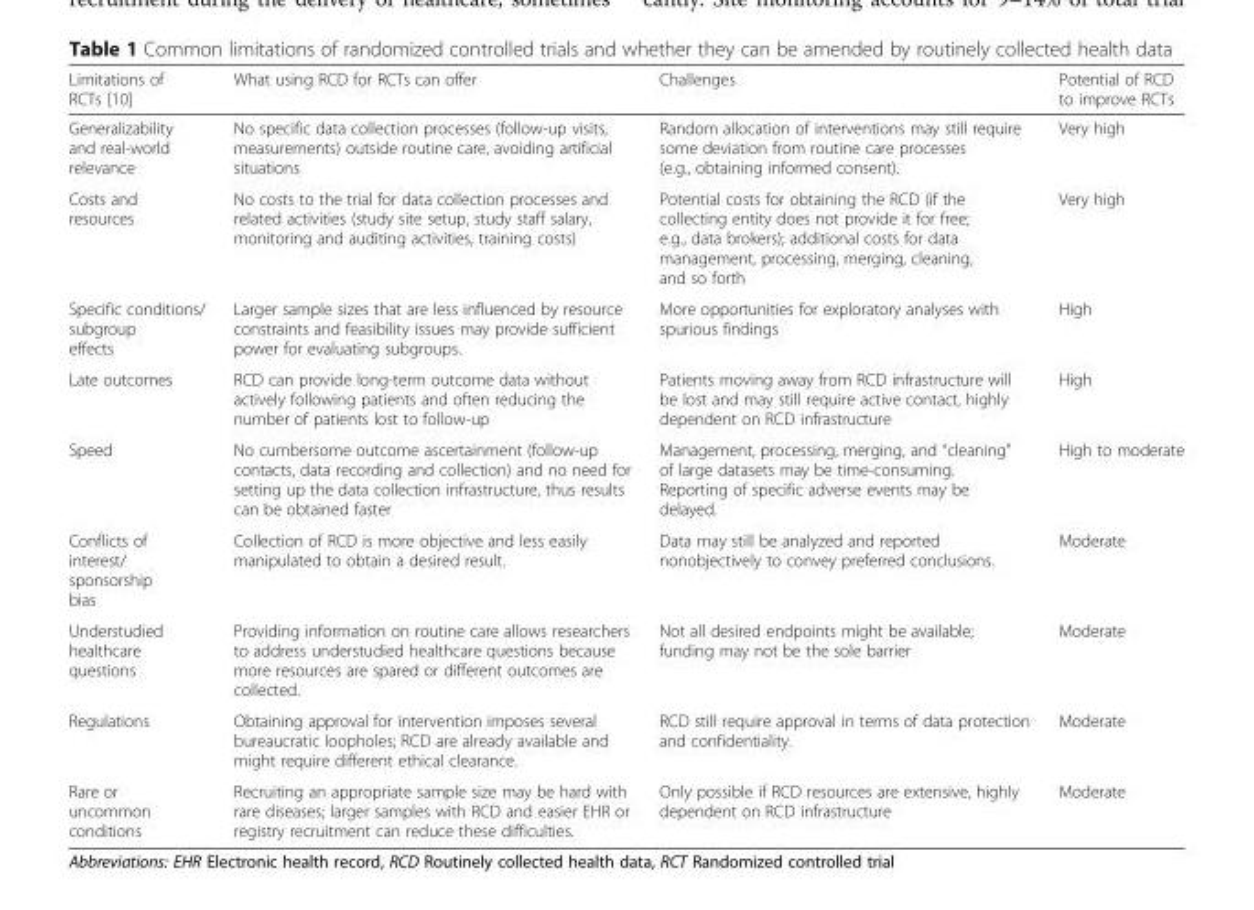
<table><thead><tr><td>Limitations of RCTs [10]</td><td>What using RCD for RCTs can offer</td><td>Challenges</td><td>Potential of RCD to improve RCTs</td></tr></thead><tbody><tr><td>Generalizability and real-world relevance</td><td>No specific data collection processes (follow-up visits, measurements) outside routine care, avoiding artificial situations</td><td>Random allocation of interventions may still require some deviation from routine care processes (e.g., obtaining informed consent).</td><td>Very high</td></tr><tr><td>Costs and resources</td><td>No costs to the trial for data collection processes and related activities (study site setup, study staff salary, monitoring and auditing activities, training costs)</td><td>Potential costs for obtaining the RCD (if the collecting entity does not provide it for free; e.g., data brokers); additional costs for data management, processing, merging, cleaning, and so forth</td><td>Very high</td></tr><tr><td>Specific conditions/ subgroup effects</td><td>Larger sample sizes that are less influenced by resource constraints and feasibility issues may provide sufficient power for evaluating subgroups.</td><td>More opportunities for exploratory analyses with spurious findings</td><td>High</td></tr><tr><td>Late outcomes</td><td>RCD can provide long-term outcome data without actively following patients and often reducing the number of patients lost to follow-up</td><td>Patients moving away from RCD infrastructure will be lost and may still require active contact, highly dependent on RCD infrastructure</td><td>High</td></tr><tr><td>Speed</td><td>No cumbersome outcome ascertainment (follow-up contacts, data recording and collection) and no need for setting up the data collection infrastructure, thus results can be obtained faster</td><td>Management, processing, merging, and “cleaning” of large datasets may be time-consuming. Reporting of specific adverse events may be delayed.</td><td>High to moderate</td></tr><tr><td>Conflicts of interest/ sponsorship bias</td><td>Collection of RCD is more objective and less easily manipulated to obtain a desired result.</td><td>Data may still be analyzed and reported nonobjectively to convey preferred conclusions.</td><td>Moderate</td></tr><tr><td>Understudied healthcare questions</td><td>Providing information on routine care allows researchers to address understudied healthcare questions because more resources are spared or different outcomes are collected.</td><td>Not all desired endpoints might be available; funding may not be the sole barrier</td><td>Moderate</td></tr><tr><td>Regulations</td><td>Obtaining approval for intervention imposes several bureaucratic loopholes; RCD are already available and might require different ethical clearance.</td><td>RCD still require approval in terms of data protection and confidentiality.</td><td>Moderate</td></tr><tr><td>Rare or uncommon conditions</td><td>Recruiting an appropriate sample size may be hard with rare diseases; larger samples with RCD and easier EHR or registry recruitment can reduce these difficulties.</td><td>Only possible if RCD resources are extensive, highly dependent on RCD infrastructure</td><td>Moderate</td></tr></tbody></table>